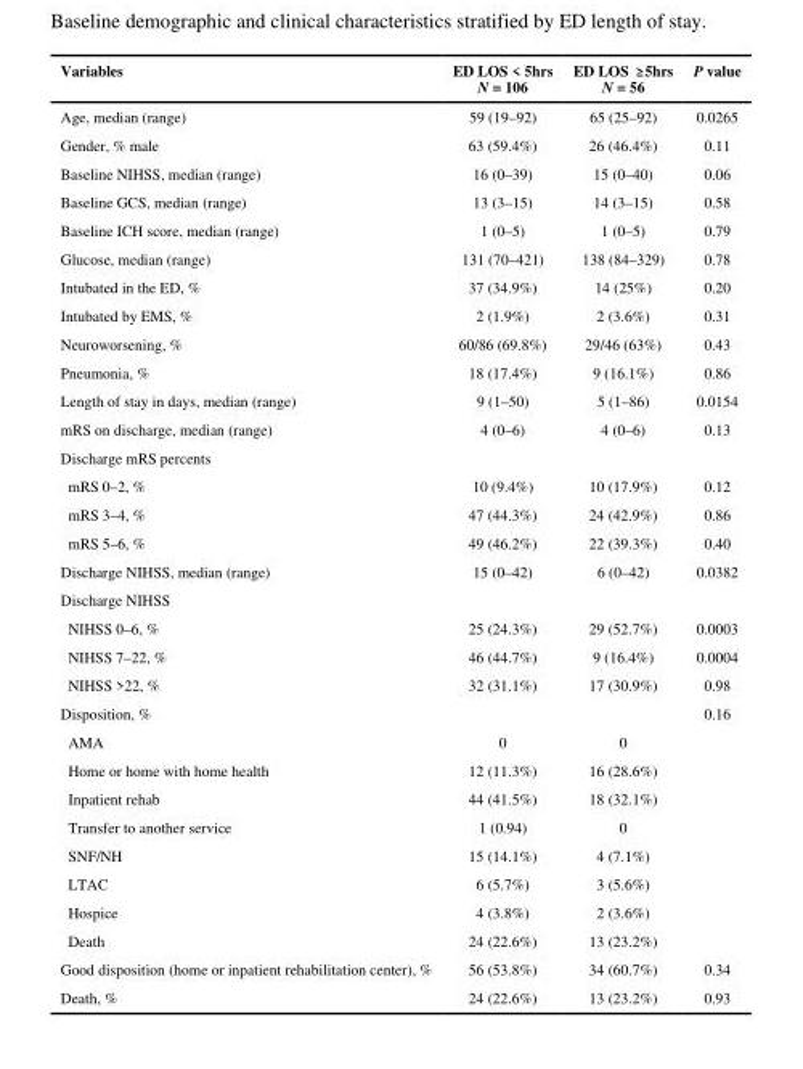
<table><thead><tr><td>Variables</td><td>ED LOS &lt; 5hrs N = 106</td><td>ED LOS ≥ 5hrs N = 56</td><td>P value</td></tr></thead><tbody><tr><td>Age, median (range)</td><td>59 (19–92)</td><td>65 (25–92)</td><td>0.0265</td></tr><tr><td>Gender, % male</td><td>63 (59.4%)</td><td>26 (46.4%)</td><td>0.11</td></tr><tr><td>Baseline NIHSS, median (range)</td><td>16 (0–39)</td><td>15 (0–40)</td><td>0.06</td></tr><tr><td>Baseline GCS, median (range)</td><td>13 (3–15)</td><td>14 (3–15)</td><td>0.58</td></tr><tr><td>Baseline ICH score, median (range)</td><td>1 (0–5)</td><td>1 (0–5)</td><td>0.79</td></tr><tr><td>Glucose, median (range)</td><td>131 (70–421)</td><td>138 (84–329)</td><td>0.78</td></tr><tr><td>Intubated in the ED, %</td><td>37 (34.9%)</td><td>14 (25%)</td><td>0.20</td></tr><tr><td>Intubated by EMS, %</td><td>2 (1.9%)</td><td>2 (3.6%)</td><td>0.31</td></tr><tr><td>Neuroworsening, %</td><td>60/86 (69.8%)</td><td>29/46 (63%)</td><td>0.43</td></tr><tr><td>Pneumonia, %</td><td>18 (17.4%)</td><td>9 (16.1%)</td><td>0.86</td></tr><tr><td>Length of stay in days, median (range)</td><td>9 (1–50)</td><td>5 (1–86)</td><td>0.0154</td></tr><tr><td>mRS on discharge, median (range)</td><td>4 (0–6)</td><td>4 (0–6)</td><td>0.13</td></tr><tr><td colspan="4">Discharge mRS percents</td></tr><tr><td>mRS 0–2, %</td><td>10 (9.4%)</td><td>10 (17.9%)</td><td>0.12</td></tr><tr><td>mRS 3–4, %</td><td>47 (44.3%)</td><td>24 (42.9%)</td><td>0.86</td></tr><tr><td>mRS 5–6, %</td><td>49 (46.2%)</td><td>22 (39.3%)</td><td>0.40</td></tr><tr><td>Discharge NIHSS, median (range)</td><td>15 (0–42)</td><td>6 (0–42)</td><td>0.0382</td></tr><tr><td colspan="4">Discharge NIHSS</td></tr><tr><td>NIHSS 0–6, %</td><td>25 (24.3%)</td><td>29 (52.7%)</td><td>0.0003</td></tr><tr><td>NIHSS 7–22, %</td><td>46 (44.7%)</td><td>9 (16.4%)</td><td>0.0004</td></tr><tr><td>NIHSS &gt;22, %</td><td>32 (31.1%)</td><td>17 (30.9%)</td><td>0.98</td></tr><tr><td>Disposition, %</td><td></td><td></td><td>0.16</td></tr><tr><td>AMA</td><td>0</td><td>0</td><td></td></tr><tr><td>Home or home with home health</td><td>12 (11.3%)</td><td>16 (28.6%)</td><td></td></tr><tr><td>Inpatient rehab</td><td>44 (41.5%)</td><td>18 (32.1%)</td><td></td></tr><tr><td>Transfer to another service</td><td>1 (0.94)</td><td>0</td><td></td></tr><tr><td>SNF/NH</td><td>15 (14.1%)</td><td>4 (7.1%)</td><td></td></tr><tr><td>LTAC</td><td>6 (5.7%)</td><td>3 (5.6%)</td><td></td></tr><tr><td>Hospice</td><td>4 (3.8%)</td><td>2 (3.6%)</td><td></td></tr><tr><td>Death</td><td>24 (22.6%)</td><td>13 (23.2%)</td><td></td></tr><tr><td>Good disposition (home or inpatient rehabilitation center), %</td><td>56 (53.8%)</td><td>34 (60.7%)</td><td>0.34</td></tr><tr><td>Death, %</td><td>24 (22.6%)</td><td>13 (23.2%)</td><td>0.93</td></tr></tbody></table>